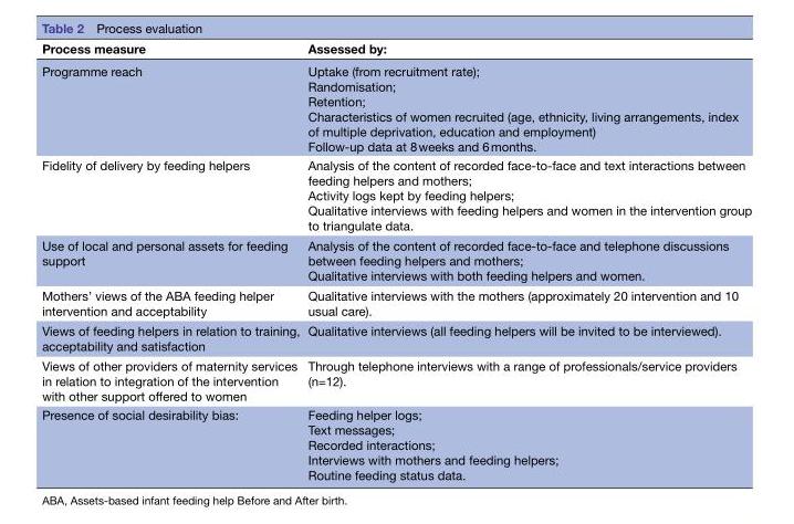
<table><thead><tr><td>Process measure</td><td>Assessed by:</td></tr></thead><tbody><tr><td>Programme reach</td><td>Uptake (from recruitment rate); Randomisation; Retention; Characteristics of women recruited (age, ethnicity, living arrangements, index of multiple deprivation, education and employment) Follow-up data at 8 weeks and 6 months.</td></tr><tr><td>Fidelity of delivery by feeding helpers</td><td>Analysis of the content of recorded face-to-face and text interactions between feeding helpers and mothers; Activity logs kept by feeding helpers; Qualitative interviews with feeding helpers and women in the intervention group to triangulate data.</td></tr><tr><td>Use of local and personal assets for feeding support</td><td>Analysis of the content of recorded face-to-face and telephone discussions between feeding helpers and mothers; Qualitative interviews with both feeding helpers and women.</td></tr><tr><td>Mothers’ views of the ABA feeding helper intervention and acceptability</td><td>Qualitative interviews with the mothers (approximately 20 intervention and 10 usual care).</td></tr><tr><td>Views of feeding helpers in relation to training, acceptability and satisfaction</td><td>Qualitative interviews (all feeding helpers will be invited to be interviewed).</td></tr><tr><td>Views of other providers of maternity services in relation to integration of the intervention with other support offered to women</td><td>Through telephone interviews with a range of professionals/service providers (n=12).</td></tr><tr><td>Presence of social desirability bias:</td><td>Feeding helper logs; Text messages; Recorded interactions; Interviews with mothers and feeding helpers; Routine feeding status data.</td></tr></tbody></table>